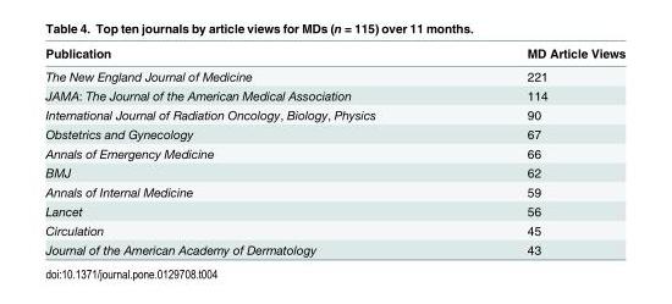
<table><thead><tr><td>Publication</td><td>MD Article Views</td></tr></thead><tbody><tr><td>The New England Journal of Medicine</td><td>221</td></tr><tr><td>JAMA: The Journal of the American Medical Association</td><td>114</td></tr><tr><td>International Journal of Radiation Oncology, Biology, Physics</td><td>90</td></tr><tr><td>Obstetrics and Gynecology</td><td>67</td></tr><tr><td>Annals of Emergency Medicine</td><td>66</td></tr><tr><td>BMJ</td><td>62</td></tr><tr><td>Annals of Internal Medicine</td><td>59</td></tr><tr><td>Lancet</td><td>56</td></tr><tr><td>Circulation</td><td>45</td></tr><tr><td>Journal of the American Academy of Dermatology</td><td>43</td></tr></tbody></table>